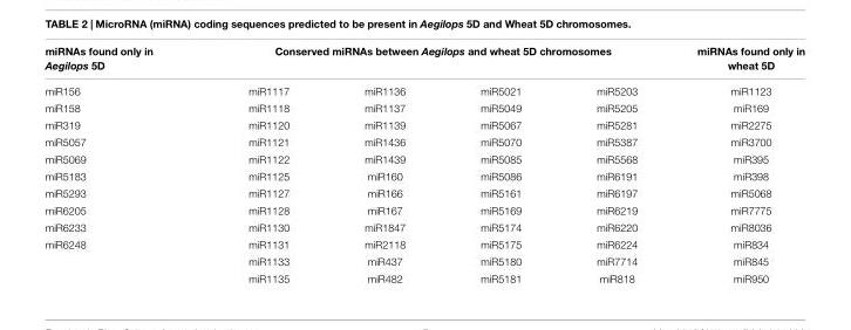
<table><thead><tr><td rowspan="2">miRNAs found only in Aegilops 5D miR156</td><td colspan="4">Conserved miRNAs between Aegilops and wheat 5D chromosomes</td><td rowspan="2">miRNAs found only in wheat 5D miR1123</td></tr><tr><td>miR1117</td><td>miR1136</td><td>miR5021</td><td>miR5203</td></tr></thead><tbody><tr><td>miR158</td><td>miR1118</td><td>miR1137</td><td>miR5049</td><td>miR5205</td><td>miR169</td></tr><tr><td>miR319</td><td>miR1120</td><td>miR1139</td><td>miR5067</td><td>miR5281</td><td>miR2275</td></tr><tr><td>miR5057</td><td>miR1121</td><td>miR1436</td><td>miR5070</td><td>miR5387</td><td>miR3700</td></tr><tr><td>miR5069</td><td>miR1122</td><td>miR1439</td><td>miR5085</td><td>miR5568</td><td>miR395</td></tr><tr><td>miR5183</td><td>miR1125</td><td>miR160</td><td>miR5086</td><td>miR6191</td><td>miR398</td></tr><tr><td>miR5293</td><td>miR1127</td><td>miR166</td><td>miR5161</td><td>miR6197</td><td>miR5068</td></tr><tr><td>miR6205</td><td>miR1128</td><td>miR167</td><td>miR5169</td><td>miR6219</td><td>miR7775</td></tr><tr><td>miR6233</td><td>miR1130</td><td>miR1847</td><td>miR5174</td><td>miR6220</td><td>miR8036</td></tr><tr><td rowspan="3">miR6248</td><td>miR1131</td><td>miR2118</td><td>miR5175</td><td>miR6224</td><td>miR834</td></tr><tr><td>miR1133</td><td>miR437</td><td>miR5180</td><td>miR7714</td><td>miR845</td></tr><tr><td>miR1135</td><td>miR482</td><td>miR5181</td><td>miR818</td><td>miR950</td></tr></tbody></table>